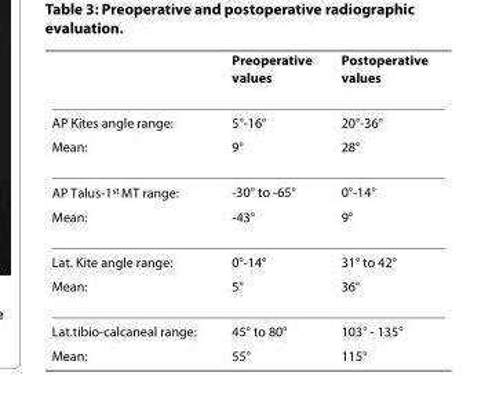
<table><thead><tr><td></td><td>Preoperative values</td><td>Postoperative values</td></tr></thead><tbody><tr><td>AP Kites angle range:</td><td>5°-16°</td><td>20°-36°</td></tr><tr><td>Mean:</td><td>9°</td><td>28°</td></tr><tr><td>AP Talus-1<sup>st</sup> MT range:</td><td>-30° to -65°</td><td>0°-14°</td></tr><tr><td>Mean:</td><td>-43°</td><td>9°</td></tr><tr><td>Lat. Kite angle range:</td><td>0°-14°</td><td>31° to 42°</td></tr><tr><td>Mean:</td><td>5°</td><td>36°</td></tr><tr><td>Lat.tibio-calcaneal range:</td><td>45° to 80°</td><td>103° - 135°</td></tr><tr><td>Mean:</td><td>55°</td><td>115°</td></tr></tbody></table>